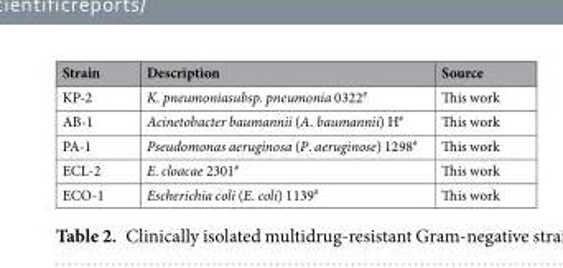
<table><thead><tr><td>Strain</td><td>Description</td><td>Source</td></tr></thead><tbody><tr><td>KP-2</td><td>K. pneumoniasubsp. pneumonia 0322<sup>#</sup></td><td>This work</td></tr><tr><td>AB-1</td><td>Acinetobacter baumannii (A. baumannii) H<sup>#</sup></td><td>This work</td></tr><tr><td>PA-1</td><td>Pseudomonas aeruginosa (P. aeruginose) 1298<sup>#</sup></td><td>This work</td></tr><tr><td>ECL-2</td><td>E. cloacae 2301<sup>#</sup></td><td>This work</td></tr><tr><td>ECO-1</td><td>Escherichia coli (E. coli) 1139<sup>#</sup></td><td>This work</td></tr></tbody></table>